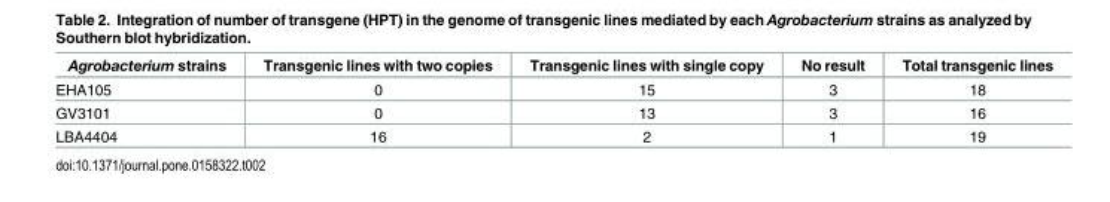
<table><thead><tr><td>Agrobacterium strains</td><td>Transgenic lines with two copies</td><td>Transgenic lines with single copy</td><td>No result</td><td>Total transgenic lines</td></tr></thead><tbody><tr><td>EHA105</td><td>0</td><td>15</td><td>3</td><td>18</td></tr><tr><td>GV3101</td><td>0</td><td>13</td><td>3</td><td>16</td></tr><tr><td>LBA4404</td><td>16</td><td>2</td><td>1</td><td>19</td></tr></tbody></table>